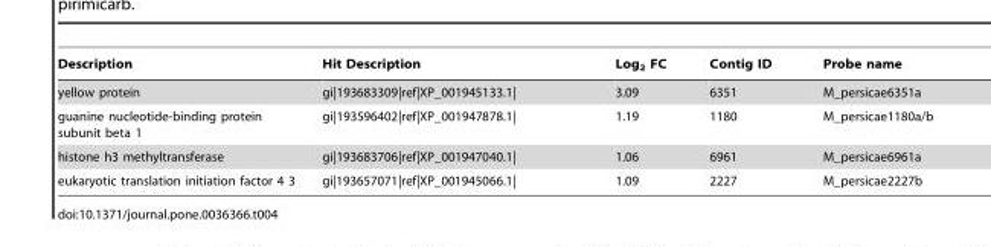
<table><thead><tr><td>Description</td><td>Hit Description</td><td>Log<sub>2</sub> FC</td><td>Contig ID</td><td>Probe name</td></tr></thead><tbody><tr><td>yellow protein</td><td>gi|193683309|ref|XP_001945133.1|</td><td>3.09</td><td>6351</td><td>M_persicae6351a</td></tr><tr><td>guanine nucleotide-binding protein subunit beta 1</td><td>gi|193596402|ref|XP_001947878.1|</td><td>1.19</td><td>1180</td><td>M_persicae1180a/b</td></tr><tr><td>histone h3 methyltransferase</td><td>gi|193683706|ref|XP_001947040.1|</td><td>1.06</td><td>6961</td><td>M_persicae6961a</td></tr><tr><td>eukaryotic translation initiation factor 4 3</td><td>gi|193657071|ref|XP_001945066.1|</td><td>1.09</td><td>2227</td><td>M_persicae2227b</td></tr></tbody></table>